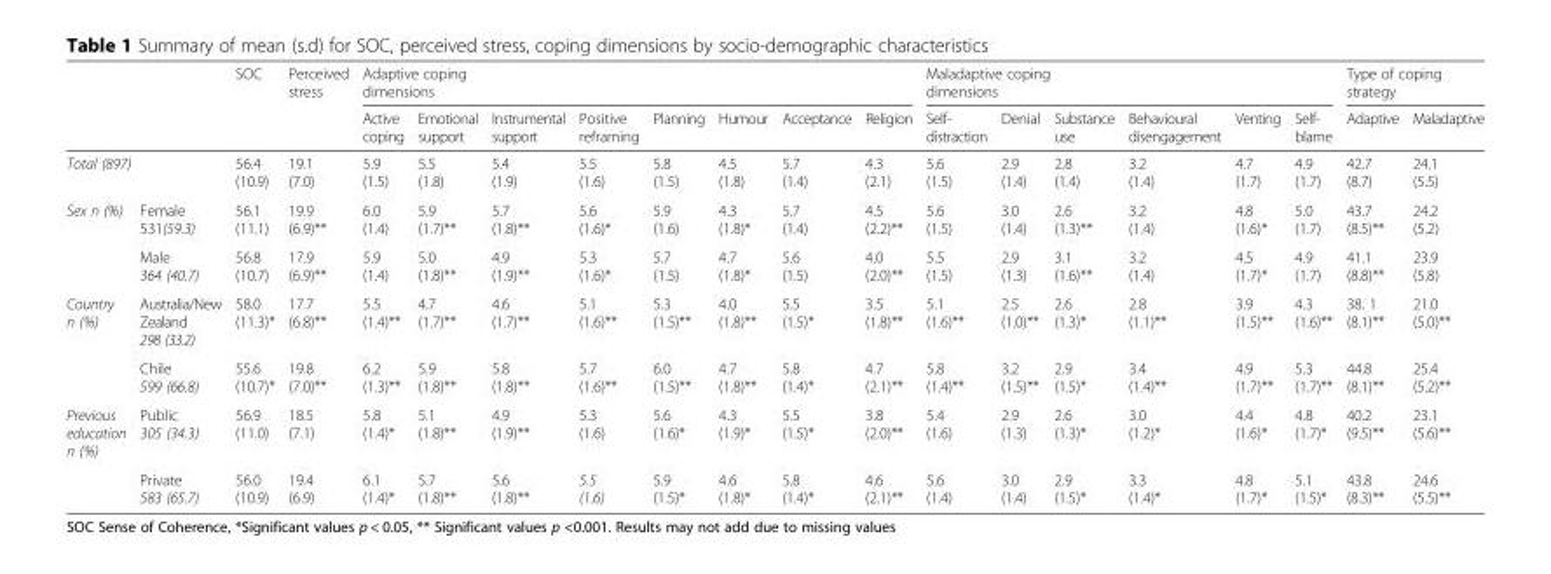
<table><thead><tr><td rowspan="2"></td><td rowspan="2"></td><td rowspan="2">SOC</td><td rowspan="2">Perceived stress</td><td colspan="8">Adaptive coping dimensions</td><td colspan="6">Maladaptive coping dimensions</td><td colspan="2">Type of coping strategy</td></tr><tr><td>Active coping</td><td>Emotional support</td><td>Instrumental support</td><td>Positive reframing</td><td>Planning</td><td>Humour</td><td>Acceptance</td><td>Religion</td><td>Self- distraction</td><td>Denial</td><td>Substance use</td><td>Behavioural disengagement</td><td>Venting</td><td>Self- blame</td><td>Adaptive</td><td>Maladaptive</td></tr></thead><tbody><tr><td colspan="2">Total (897)</td><td>56.4 (10.9)</td><td>19.1 (7.0)</td><td>5.9 (1.5)</td><td>5.5 (1.8)</td><td>5.4 (1.9)</td><td>5.5 (1.6)</td><td>5.8 (1.5)</td><td>4.5 (1.8)</td><td>5.7 (1.4)</td><td>4.3 (2.1)</td><td>5.6 (1.5)</td><td>2.9 (1.4)</td><td>2.8 (1.4)</td><td>3.2 (1.4)</td><td>4.7 (1.7)</td><td>4.9 (1.7)</td><td>42.7 (8.7)</td><td>24.1 (5.5)</td></tr><tr><td rowspan="2">Sex n (%)</td><td>Female 531(59.3)</td><td>56.1 (11.1)</td><td>19.9 (6.9)**</td><td>6.0 (1.4)</td><td>5.9 (1.7)**</td><td>5.7 (1.8)**</td><td>5.6 (1.6)*</td><td>5.9 (1.6)</td><td>4.3 (1.8)*</td><td>5.7 (1.4)</td><td>4.5 (2.2)**</td><td>5.6 (1.5)</td><td>3.0 (1.4)</td><td>2.6 (1.3)**</td><td>3.2 (1.4)</td><td>4.8 (1.6)*</td><td>5.0 (1.7)</td><td>43.7 (8.5)**</td><td>24.2 (5.2)</td></tr><tr><td>Male 364 (40.7)</td><td>56.8 (10.7)</td><td>17.9 (6.9)**</td><td>5.9 (1.4)</td><td>5.0 (1.8)**</td><td>4.9 (1.9)**</td><td>5.3 (1.6)*</td><td>5.7 (1.5)</td><td>4.7 (1.8)*</td><td>5.6 (1.5)</td><td>4.0 (2.0)**</td><td>5.5 (1.5)</td><td>2.9 (1.3)</td><td>3.1 (1.6)**</td><td>3.2 (1.4)</td><td>4.5 (1.7)*</td><td>4.9 (1.7)</td><td>41.1 (8.8)**</td><td>23.9 (5.8)</td></tr><tr><td rowspan="2">Country n (%)</td><td>Australia/New Zealand 298 (33.2)</td><td>58.0 (11.3)*</td><td>17.7 (6.8)**</td><td>5.5 (1.4)**</td><td>4.7 (1.7)**</td><td>4.6 (1.7)**</td><td>5.1 (1.6)**</td><td>5.3 (1.5)**</td><td>4.0 (1.8)**</td><td>5.5 (1.5)*</td><td>3.5 (1.8)**</td><td>5.1 (1.6)**</td><td>2.5 (1.0)**</td><td>2.6 (1.3)*</td><td>2.8 (1.1)**</td><td>3.9 (1.5)**</td><td>4.3 (1.6)**</td><td>38. 1 (8.1)**</td><td>21.0 (5.0)**</td></tr><tr><td>Chile 599 (66.8)</td><td>55.6 (10.7)*</td><td>19.8 (7.0)**</td><td>6.2 (1.3)**</td><td>5.9 (1.8)**</td><td>5.8 (1.8)**</td><td>5.7 (1.6)**</td><td>6.0 (1.5)**</td><td>4.7 (1.8)**</td><td>5.8 (1.4)*</td><td>4.7 (2.1)**</td><td>5.8 (1.4)**</td><td>3.2 (1.5)**</td><td>2.9 (1.5)*</td><td>3.4 (1.4)**</td><td>4.9 (1.7)**</td><td>5.3 (1.7)**</td><td>44.8 (8.1)**</td><td>25.4 (5.2)**</td></tr><tr><td rowspan="2">Previous education n (%)</td><td>Public 305 (34.3)</td><td>56.9 (11.0)</td><td>18.5 (7.1)</td><td>5.8 (1.4)*</td><td>5.1 (1.8)**</td><td>4.9 (1.9)**</td><td>5.3 (1.6)</td><td>5.6 (1.6)*</td><td>4.3 (1.9)*</td><td>5.5 (1.5)*</td><td>3.8 (2.0)**</td><td>5.4 (1.6)</td><td>2.9 (1.3)</td><td>2.6 (1.3)*</td><td>3.0 (1.2)*</td><td>4.4 (1.6)*</td><td>4.8 (1.7)*</td><td>40.2 (9.5)**</td><td>23.1 (5.6)**</td></tr><tr><td>Private 583 (65.7)</td><td>56.0 (10.9)</td><td>19.4 (6.9)</td><td>6.1 (1.4)*</td><td>5.7 (1.8)**</td><td>5.6 (1.8)**</td><td>5.5 (1.6)</td><td>5.9 (1.5)*</td><td>4.6 (1.8)*</td><td>5.8 (1.4)*</td><td>4.6 (2.1)**</td><td>5.6 (1.4)</td><td>3.0 (1.4)</td><td>2.9 (1.5)*</td><td>3.3 (1.4)*</td><td>4.8 (1.7)*</td><td>5.1 (1.5)*</td><td>43.8 (8.3)**</td><td>24.6 (5.5)**</td></tr></tbody></table>